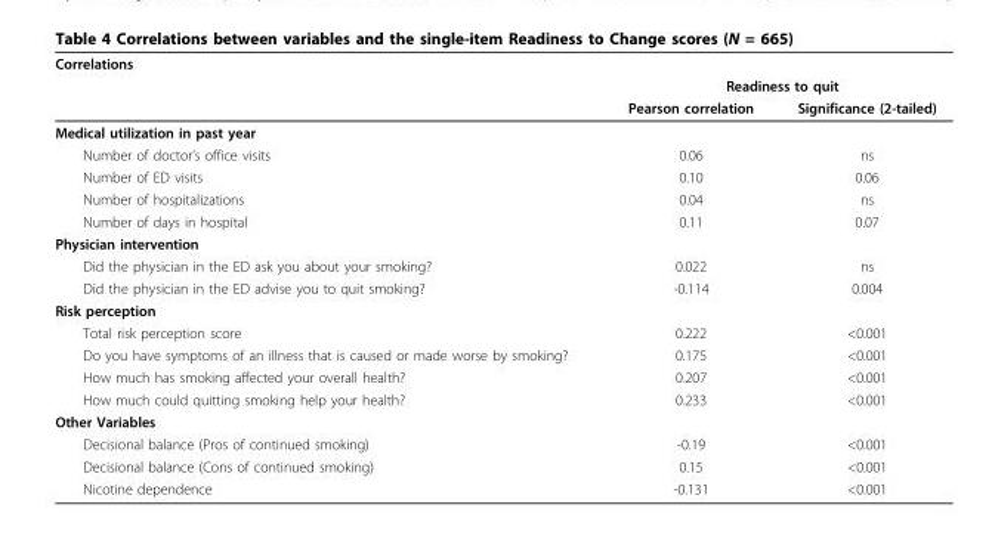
<table><thead><tr><td rowspan="3">Correlations</td><td></td><td></td></tr><tr><td colspan="2">Readiness to quit</td></tr><tr><td>Pearson correlation</td><td>Significance (2-tailed)</td></tr></thead><tbody><tr><td colspan="3">Medical utilization in past year</td></tr><tr><td>Number of doctor’s office visits</td><td>0.06</td><td>ns</td></tr><tr><td>Number of ED visits</td><td>0.10</td><td>0.06</td></tr><tr><td>Number of hospitalizations</td><td>0.04</td><td>ns</td></tr><tr><td>Number of days in hospital</td><td>0.11</td><td>0.07</td></tr><tr><td colspan="3">Physician intervention</td></tr><tr><td>Did the physician in the ED ask you about your smoking?</td><td>0.022</td><td>ns</td></tr><tr><td>Did the physician in the ED advise you to quit smoking?</td><td>-0.114</td><td>0.004</td></tr><tr><td colspan="3">Risk perception</td></tr><tr><td>Total risk perception score</td><td>0.222</td><td>&lt;0.001</td></tr><tr><td>Do you have symptoms of an illness that is caused or made worse by smoking?</td><td>0.175</td><td>&lt;0.001</td></tr><tr><td>How much has smoking affected your overall health?</td><td>0.207</td><td>&lt;0.001</td></tr><tr><td>How much could quitting smoking help your health?</td><td>0.233</td><td>&lt;0.001</td></tr><tr><td colspan="3">Other Variables</td></tr><tr><td>Decisional balance (Pros of continued smoking)</td><td>-0.19</td><td>&lt;0.001</td></tr><tr><td>Decisional balance (Cons of continued smoking)</td><td>0.15</td><td>&lt;0.001</td></tr><tr><td>Nicotine dependence</td><td>-0.131</td><td>&lt;0.001</td></tr></tbody></table>